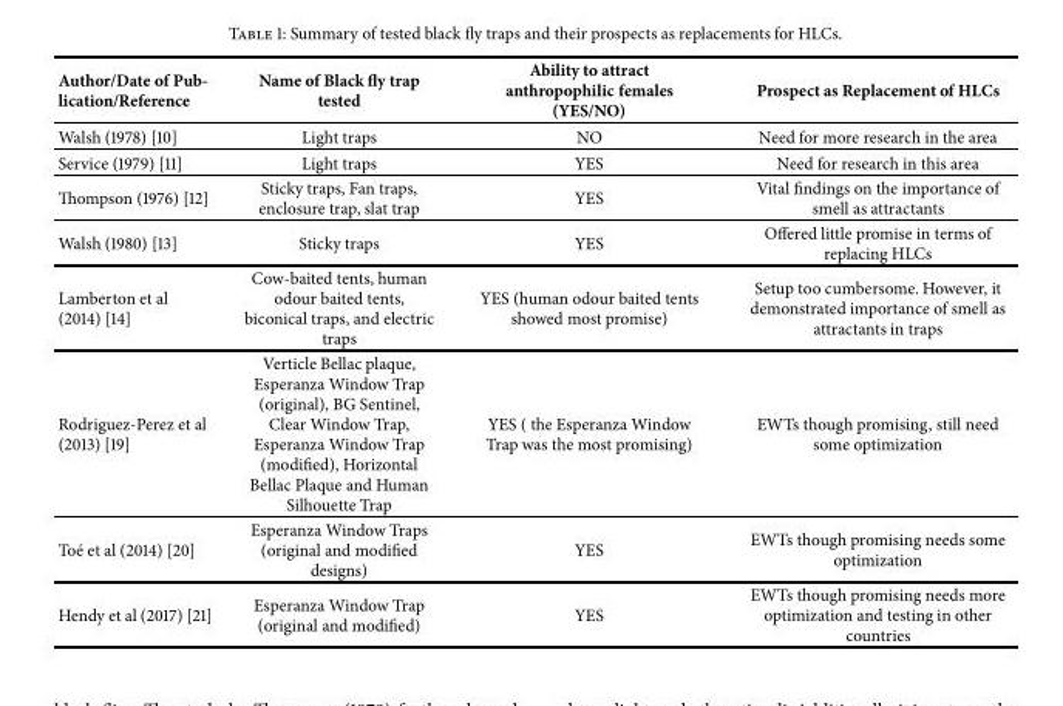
<table><thead><tr><td>Author/Date of Pub- lication/Reference</td><td>Name of Black fly trap tested</td><td>Ability to attract anthropophilic females (YES/NO)</td><td>Prospect as Replacement of HLCs</td></tr></thead><tbody><tr><td>Walsh (1978) [10]</td><td>Light traps</td><td>NO</td><td>Need for more research in the area</td></tr><tr><td>Service (1979) [11]</td><td>Light traps</td><td>YES</td><td>Need for research in this area</td></tr><tr><td>Thompson (1976) [12]</td><td>Sticky traps, Fan traps, enclosure trap, slat trap</td><td>YES</td><td>Vital findings on the importance of smell as attractants</td></tr><tr><td>Walsh (1980) [13]</td><td>Sticky traps</td><td>YES</td><td>Offered little promise in terms of replacing HLCs</td></tr><tr><td>Lamberton et al (2014) [14]</td><td>Cow-baited tents, human odour baited tents, biconical traps, and electric traps</td><td>YES (human odour baited tents showed most promise)</td><td>Setup too cumbersome. However, it demonstrated importance of smell as attractants in traps</td></tr><tr><td>Rodriguez-Perez et al (2013) [19]</td><td>Verticle Bellac plaque, Esperanza Window Trap (original), BG Sentinel, Clear Window Trap, Esperanza Window Trap (modified), Horizontal Bellac Plaque and Human Silhouette Trap</td><td>YES ( the Esperanza Window Trap was the most promising)</td><td>EWTs though promising, still need some optimization</td></tr><tr><td>To´e et al (2014) [20]</td><td>Esperanza Window Traps (original and modified designs)</td><td>YES</td><td>EWTs though promising needs some optimization</td></tr><tr><td>Hendy et al (2017) [21]</td><td>Esperanza Window Trap (original and modified)</td><td>YES</td><td>EWTs though promising needs more optimization and testing in other countries</td></tr></tbody></table>